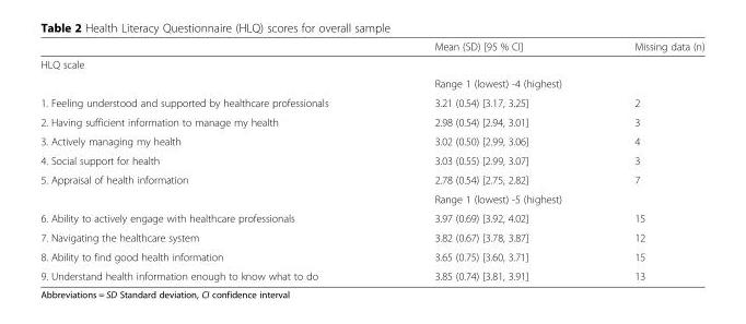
<table><thead><tr><td></td><td>Mean (SD) [95 % CI]</td><td>Missing data (n)</td></tr></thead><tbody><tr><td colspan="3">HLQ scale</td></tr><tr><td></td><td colspan="2">Range 1 (lowest) -4 (highest)</td></tr><tr><td>1. Feeling understood and supported by healthcare professionals</td><td>3.21 (0.54) [3.17, 3.25]</td><td>2</td></tr><tr><td>2. Having sufficient information to manage my health</td><td>2.98 (0.54) [2.94, 3.01]</td><td>3</td></tr><tr><td>3. Actively managing my health</td><td>3.02 (0.50) [2.99, 3.06]</td><td>4</td></tr><tr><td>4. Social support for health</td><td>3.03 (0.55) [2.99, 3.07]</td><td>3</td></tr><tr><td rowspan="2">5. Appraisal of health information</td><td>2.78 (0.54) [2.75, 2.82]</td><td>7</td></tr><tr><td colspan="2">Range 1 (lowest) -5 (highest)</td></tr><tr><td>6. Ability to actively engage with healthcare professionals</td><td>3.97 (0.69) [3.92, 4.02]</td><td>15</td></tr><tr><td>7. Navigating the healthcare system</td><td>3.82 (0.67) [3.78, 3.87]</td><td>12</td></tr><tr><td>8. Ability to find good health information</td><td>3.65 (0.75) [3.60, 3.71]</td><td>15</td></tr><tr><td>9. Understand health information enough to know what to do</td><td>3.85 (0.74) [3.81, 3.91]</td><td>13</td></tr></tbody></table>